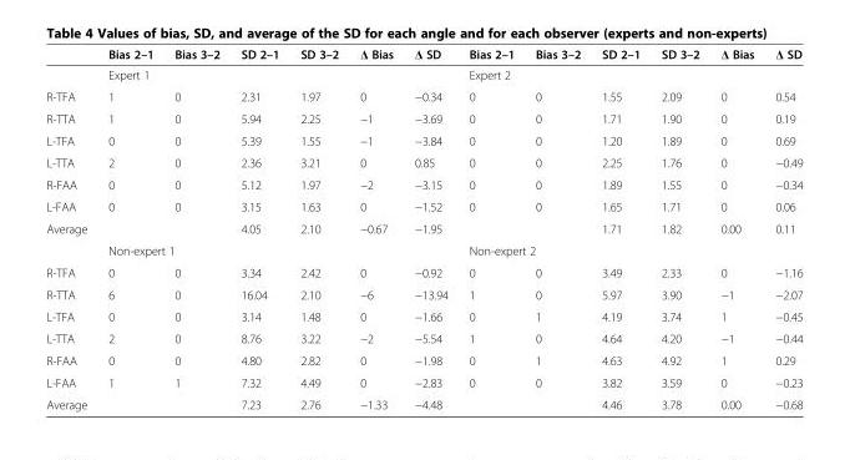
<table><thead><tr><td></td><td>Bias 2–1</td><td>Bias 3–2</td><td>SD 2–1</td><td>SD 3–2</td><td>Δ Bias</td><td>Δ SD</td><td>Bias 2–1</td><td>Bias 3–2</td><td>SD 2–1</td><td>SD 3–2</td><td>Δ Bias</td><td>Δ SD</td></tr></thead><tbody><tr><td></td><td colspan="6">Expert 1</td><td colspan="6">Expert 2</td></tr><tr><td>R-TFA</td><td>1</td><td>0</td><td>2.31</td><td>1.97</td><td>0</td><td>−0.34</td><td>0</td><td>0</td><td>1.55</td><td>2.09</td><td>0</td><td>0.54</td></tr><tr><td>R-TTA</td><td>1</td><td>0</td><td>5.94</td><td>2.25</td><td>−1</td><td>−3.69</td><td>0</td><td>0</td><td>1.71</td><td>1.90</td><td>0</td><td>0.19</td></tr><tr><td>L-TFA</td><td>0</td><td>0</td><td>5.39</td><td>1.55</td><td>−1</td><td>−3.84</td><td>0</td><td>0</td><td>1.20</td><td>1.89</td><td>0</td><td>0.69</td></tr><tr><td>L-TTA</td><td>2</td><td>0</td><td>2.36</td><td>3.21</td><td>0</td><td>0.85</td><td>0</td><td>0</td><td>2.25</td><td>1.76</td><td>0</td><td>−0.49</td></tr><tr><td>R-FAA</td><td>0</td><td>0</td><td>5.12</td><td>1.97</td><td>−2</td><td>−3.15</td><td>0</td><td>0</td><td>1.89</td><td>1.55</td><td>0</td><td>−0.34</td></tr><tr><td>L-FAA</td><td>0</td><td>0</td><td>3.15</td><td>1.63</td><td>0</td><td>−1.52</td><td>0</td><td>0</td><td>1.65</td><td>1.71</td><td>0</td><td>0.06</td></tr><tr><td rowspan="2">Average</td><td></td><td></td><td>4.05</td><td>2.10</td><td>−0.67</td><td>−1.95</td><td></td><td></td><td>1.71</td><td>1.82</td><td>0.00</td><td>0.11</td></tr><tr><td colspan="6">Non-expert 1</td><td colspan="6">Non-expert 2</td></tr><tr><td>R-TFA</td><td>0</td><td>0</td><td>3.34</td><td>2.42</td><td>0</td><td>−0.92</td><td>0</td><td>0</td><td>3.49</td><td>2.33</td><td>0</td><td>−1.16</td></tr><tr><td>R-TTA</td><td>6</td><td>0</td><td>16.04</td><td>2.10</td><td>−6</td><td>−13.94</td><td>1</td><td>0</td><td>5.97</td><td>3.90</td><td>−1</td><td>−2.07</td></tr><tr><td>L-TFA</td><td>0</td><td>0</td><td>3.14</td><td>1.48</td><td>0</td><td>−1.66</td><td>0</td><td>1</td><td>4.19</td><td>3.74</td><td>1</td><td>−0.45</td></tr><tr><td>L-TTA</td><td>2</td><td>0</td><td>8.76</td><td>3.22</td><td>−2</td><td>−5.54</td><td>1</td><td>0</td><td>4.64</td><td>4.20</td><td>−1</td><td>−0.44</td></tr><tr><td>R-FAA</td><td>0</td><td>0</td><td>4.80</td><td>2.82</td><td>0</td><td>−1.98</td><td>0</td><td>1</td><td>4.63</td><td>4.92</td><td>1</td><td>0.29</td></tr><tr><td>L-FAA</td><td>1</td><td>1</td><td>7.32</td><td>4.49</td><td>0</td><td>−2.83</td><td>0</td><td>0</td><td>3.82</td><td>3.59</td><td>0</td><td>−0.23</td></tr><tr><td>Average</td><td></td><td></td><td>7.23</td><td>2.76</td><td>−1.33</td><td>−4.48</td><td></td><td></td><td>4.46</td><td>3.78</td><td>0.00</td><td>−0.68</td></tr></tbody></table>